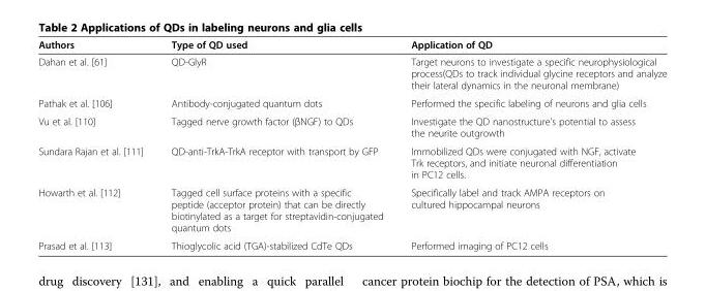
<table><thead><tr><td>Authors</td><td>Type of QD used</td><td>Application of QD</td></tr></thead><tbody><tr><td>Dahan et al. [61]</td><td>QD-GlyR</td><td>Target neurons to investigate a specific neurophysiological process(QDs to track individual glycine receptors and analyze their lateral dynamics in the neuronal membrane)</td></tr><tr><td>Pathak et al. [106]</td><td>Antibody-conjugated quantum dots</td><td>Performed the specific labeling of neurons and glia cells</td></tr><tr><td>Vu et al. [110]</td><td>Tagged nerve growth factor (βNGF) to QDs</td><td>Investigate the QD nanostructure&#x27;s potential to assess the neurite outgrowth</td></tr><tr><td>Sundara Rajan et al. [111]</td><td>QD-anti-TrkA-TrkA receptor with transport by GFP</td><td>Immobilized QDs were conjugated with NGF, activate Trk receptors, and initiate neuronal differentiation in PC12 cells.</td></tr><tr><td>Howarth et al. [112]</td><td>Tagged cell surface proteins with a specific peptide (acceptor protein) that can be directly biotinylated as a target for streptavidin-conjugated quantum dots</td><td>Specifically label and track AMPA receptors on cultured hippocampal neurons</td></tr><tr><td>Prasad et al. [113]</td><td>Thioglycolic acid (TGA)-stabilized CdTe QDs</td><td>Performed imaging of PC12 cells</td></tr></tbody></table>